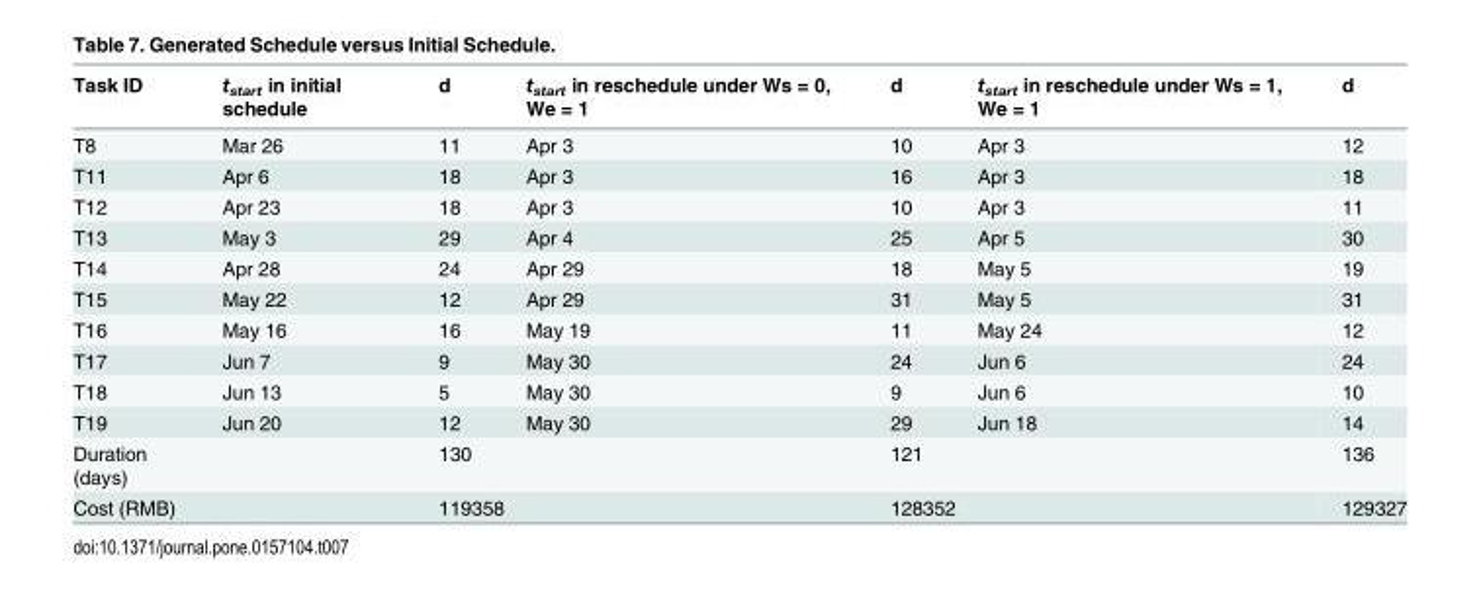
<table><thead><tr><td>Task ID</td><td>t<sub>start</sub> in initial schedule</td><td>d</td><td>t<sub>start</sub> in reschedule under Ws = 0, We = 1</td><td>d</td><td>t<sub>start</sub> in reschedule under Ws = 1, We = 1</td><td>d</td></tr></thead><tbody><tr><td>T8</td><td>Mar 26</td><td>11</td><td>Apr 3</td><td>10</td><td>Apr 3</td><td>12</td></tr><tr><td>T11</td><td>Apr 6</td><td>18</td><td>Apr 3</td><td>16</td><td>Apr 3</td><td>18</td></tr><tr><td>T12</td><td>Apr 23</td><td>18</td><td>Apr 3</td><td>10</td><td>Apr 3</td><td>11</td></tr><tr><td>T13</td><td>May 3</td><td>29</td><td>Apr 4</td><td>25</td><td>Apr 5</td><td>30</td></tr><tr><td>T14</td><td>Apr 28</td><td>24</td><td>Apr 29</td><td>18</td><td>May 5</td><td>19</td></tr><tr><td>T15</td><td>May 22</td><td>12</td><td>Apr 29</td><td>31</td><td>May 5</td><td>31</td></tr><tr><td>T16</td><td>May 16</td><td>16</td><td>May 19</td><td>11</td><td>May 24</td><td>12</td></tr><tr><td>T17</td><td>Jun 7</td><td>9</td><td>May 30</td><td>24</td><td>Jun 6</td><td>24</td></tr><tr><td>T18</td><td>Jun 13</td><td>5</td><td>May 30</td><td>9</td><td>Jun 6</td><td>10</td></tr><tr><td>T19</td><td>Jun 20</td><td>12</td><td>May 30</td><td>29</td><td>Jun 18</td><td>14</td></tr><tr><td>Duration (days)</td><td></td><td>130</td><td></td><td>121</td><td></td><td>136</td></tr><tr><td>Cost (RMB)</td><td></td><td>119358</td><td></td><td>128352</td><td></td><td>129327</td></tr></tbody></table>